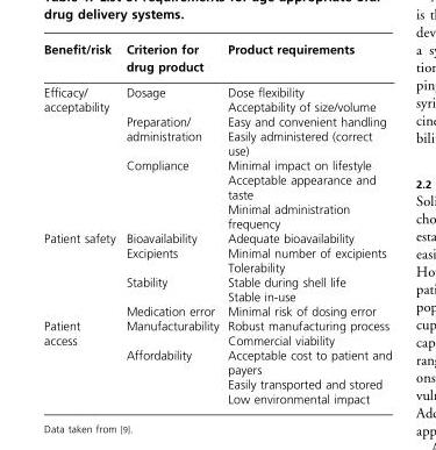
<table><thead><tr><td>Benefit/risk</td><td>Criterion for drug product</td><td>Product requirements</td></tr></thead><tbody><tr><td rowspan="3">Efficacy/ acceptability</td><td>Dosage</td><td>Dose flexibility Acceptability of size/volume</td></tr><tr><td>Preparation/ administration</td><td>Easy and convenient handling Easily administered (correct use)</td></tr><tr><td>Compliance</td><td>Minimal impact on lifestyle Acceptable appearance and taste Minimal administration frequency</td></tr><tr><td rowspan="4">Patient safety</td><td>Bioavailability</td><td>Adequate bioavailability</td></tr><tr><td>Excipients</td><td>Minimal number of excipients Tolerability</td></tr><tr><td>Stability</td><td>Stable during shell life Stable in-use</td></tr><tr><td>Medication error</td><td>Minimal risk of dosing error</td></tr><tr><td rowspan="2">Patient access</td><td>Manufacturability</td><td>Robust manufacturing process Commercial viability</td></tr><tr><td>Affordability</td><td>Acceptable cost to patient and payers Easily transported and stored Low environmental impact</td></tr></tbody></table>